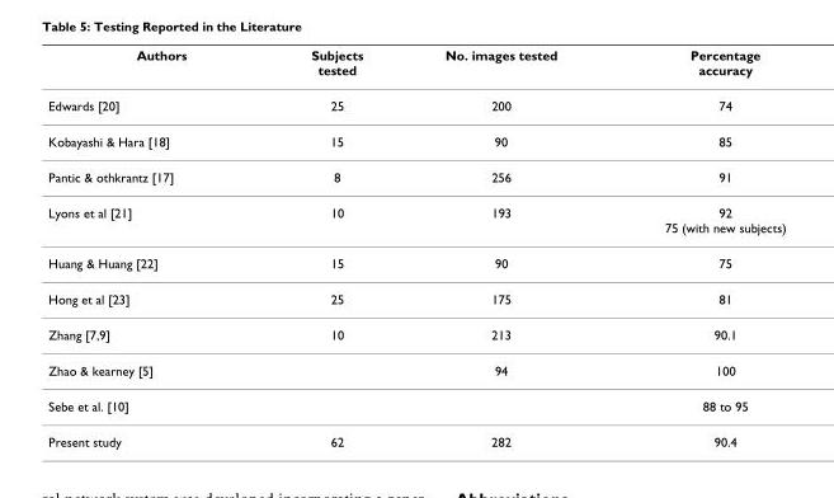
<table><thead><tr><td>Authors</td><td>Subjects tested</td><td>No. images tested</td><td>Percentage accuracy</td></tr></thead><tbody><tr><td>Edwards [20]</td><td>25</td><td>200</td><td>74</td></tr><tr><td>Kobayashi &amp; Hara [18]</td><td>15</td><td>90</td><td>85</td></tr><tr><td>Pantic &amp; othkrantz [17]</td><td>8</td><td>256</td><td>91</td></tr><tr><td>Lyons et al [21]</td><td>10</td><td>193</td><td>92 75 (with new subjects)</td></tr><tr><td>Huang &amp; Huang [22]</td><td>15</td><td>90</td><td>75</td></tr><tr><td>Hong et al [23]</td><td>25</td><td>175</td><td>81</td></tr><tr><td>Zhang [7,9]</td><td>10</td><td>213</td><td>90.1</td></tr><tr><td>Zhao &amp; kearney [5]</td><td></td><td>94</td><td>100</td></tr><tr><td>Sebe et al. [10]</td><td></td><td></td><td>88 to 95</td></tr><tr><td>Present study</td><td>62</td><td>282</td><td>90.4</td></tr></tbody></table>